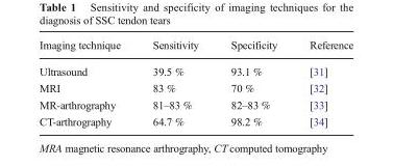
<table><thead><tr><td>Imaging technique</td><td>Sensitivity</td><td>Specificity</td><td>Reference</td></tr></thead><tbody><tr><td>Ultrasound</td><td>39.5 %</td><td>93.1 %</td><td>[31]</td></tr><tr><td>MRI</td><td>83 %</td><td>70 %</td><td>[32]</td></tr><tr><td>MR-arthrography</td><td>81–83 %</td><td>82–83 %</td><td>[33]</td></tr><tr><td>CT-arthrography</td><td>64.7 %</td><td>98.2 %</td><td>[34]</td></tr></tbody></table>